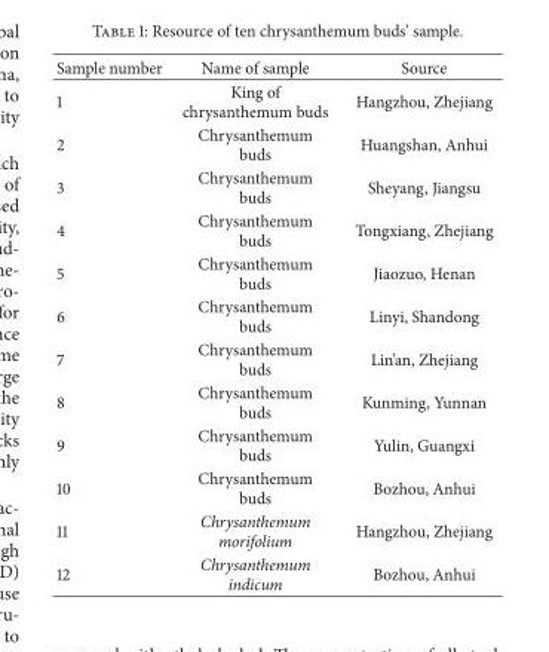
<table><thead><tr><td>Sample number</td><td>Name of sample</td><td>Source</td></tr></thead><tbody><tr><td>1</td><td>King of chrysanthemum buds</td><td>Hangzhou, Zhejiang</td></tr><tr><td>2</td><td>Chrysanthemum buds</td><td>Huangshan, Anhui</td></tr><tr><td>3</td><td>Chrysanthemum buds</td><td>Sheyang, Jiangsu</td></tr><tr><td>4</td><td>Chrysanthemum buds</td><td>Tongxiang, Zhejiang</td></tr><tr><td>5</td><td>Chrysanthemum buds</td><td>Jiaozuo, Henan</td></tr><tr><td>6</td><td>Chrysanthemum buds</td><td>Linyi, Shandong</td></tr><tr><td>7</td><td>Chrysanthemum buds</td><td>Lin’an, Zhejiang</td></tr><tr><td>8</td><td>Chrysanthemum buds</td><td>Kunming, Yunnan</td></tr><tr><td>9</td><td>Chrysanthemum buds</td><td>Yulin, Guangxi</td></tr><tr><td>10</td><td>Chrysanthemum buds</td><td>Bozhou, Anhui</td></tr><tr><td>11</td><td>Chrysanthemum morifolium</td><td>Hangzhou, Zhejiang</td></tr><tr><td>12</td><td>Chrysanthemum indicum</td><td>Bozhou, Anhui</td></tr></tbody></table>